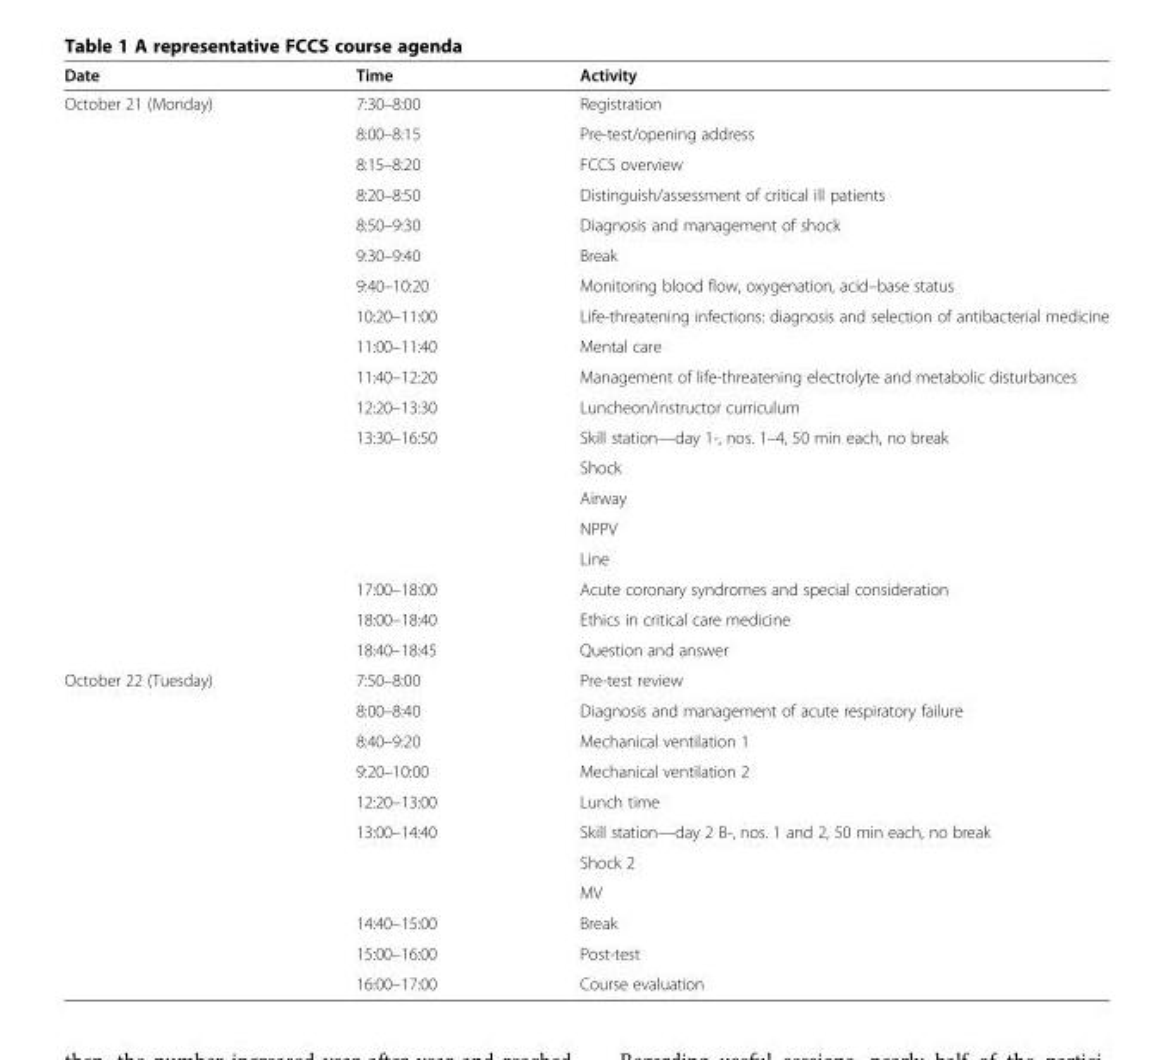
<table><thead><tr><td>Date</td><td>Time</td><td>Activity</td></tr></thead><tbody><tr><td rowspan="19">October 21 (Monday)</td><td>7:30–8:00</td><td>Registration</td></tr><tr><td>8:00–8:15</td><td>Pre-test/opening address</td></tr><tr><td>8:15–8:20</td><td>FCCS overview</td></tr><tr><td>8:20–8:50</td><td>Distinguish/assessment of critical ill patients</td></tr><tr><td>8:50–9:30</td><td>Diagnosis and management of shock</td></tr><tr><td>9:30–9:40</td><td>Break</td></tr><tr><td>9:40–10:20</td><td>Monitoring blood flow, oxygenation, acid–base status</td></tr><tr><td>10:20–11:00</td><td>Life-threatening infections: diagnosis and selection of antibacterial medicine</td></tr><tr><td>11:00–11:40</td><td>Mental care</td></tr><tr><td>11:40–12:20</td><td>Management of life-threatening electrolyte and metabolic disturbances</td></tr><tr><td>12:20–13:30</td><td>Luncheon/instructor curriculum</td></tr><tr><td rowspan="5">13:30–16:50</td><td>Skill station—day 1-, nos. 1–4, 50 min each, no break</td></tr><tr><td>Shock</td></tr><tr><td>Airway</td></tr><tr><td>NPPV</td></tr><tr><td>Line</td></tr><tr><td>17:00–18:00</td><td>Acute coronary syndromes and special consideration</td></tr><tr><td>18:00–18:40</td><td>Ethics in critical care medicine</td></tr><tr><td>18:40–18:45</td><td>Question and answer</td></tr><tr><td rowspan="11">October 22 (Tuesday)</td><td>7:50–8:00</td><td>Pre-test review</td></tr><tr><td>8:00–8:40</td><td>Diagnosis and management of acute respiratory failure</td></tr><tr><td>8:40–9:20</td><td>Mechanical ventilation 1</td></tr><tr><td>9:20–10:00</td><td>Mechanical ventilation 2</td></tr><tr><td>12:20–13:00</td><td>Lunch time</td></tr><tr><td rowspan="3">13:00–14:40</td><td>Skill station—day 2 B-, nos. 1 and 2, 50 min each, no break</td></tr><tr><td>Shock 2</td></tr><tr><td>MV</td></tr><tr><td>14:40–15:00</td><td>Break</td></tr><tr><td>15:00–16:00</td><td>Post-test</td></tr><tr><td>16:00–17:00</td><td>Course evaluation</td></tr></tbody></table>